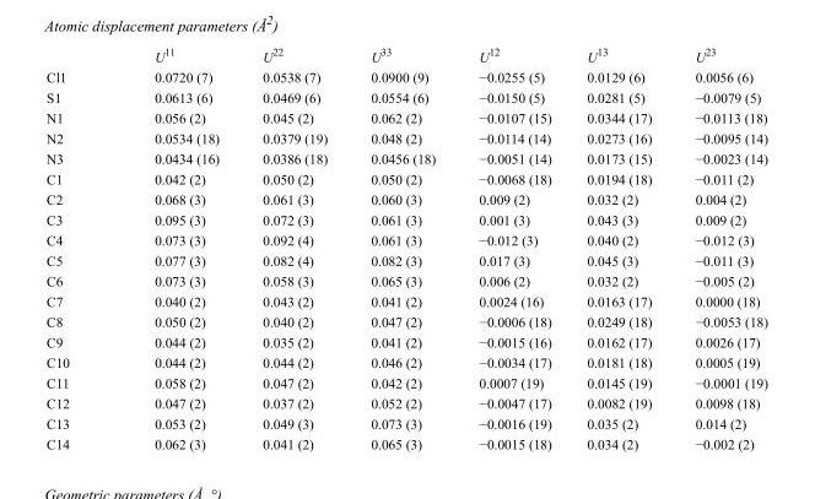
<table><thead><tr><td></td><td>U<sup>11</sup></td><td>U<sup>22</sup></td><td>U<sup>33</sup></td><td>U<sup>12</sup></td><td>U<sup>13</sup></td><td>U<sup>23</sup></td></tr></thead><tbody><tr><td>Cl1</td><td>0.0720 (7)</td><td>0.0538 (7)</td><td>0.0900 (9)</td><td>−0.0255 (5)</td><td>0.0129 (6)</td><td>0.0056 (6)</td></tr><tr><td>S1</td><td>0.0613 (6)</td><td>0.0469 (6)</td><td>0.0554 (6)</td><td>−0.0150 (5)</td><td>0.0281 (5)</td><td>−0.0079 (5)</td></tr><tr><td>N1</td><td>0.056 (2)</td><td>0.045 (2)</td><td>0.062 (2)</td><td>−0.0107 (15)</td><td>0.0344 (17)</td><td>−0.0113 (18)</td></tr><tr><td>N2</td><td>0.0534 (18)</td><td>0.0379 (19)</td><td>0.048 (2)</td><td>−0.0114 (14)</td><td>0.0273 (16)</td><td>−0.0095 (14)</td></tr><tr><td>N3</td><td>0.0434 (16)</td><td>0.0386 (18)</td><td>0.0456 (18)</td><td>−0.0051 (14)</td><td>0.0173 (15)</td><td>−0.0023 (14)</td></tr><tr><td>C1</td><td>0.042 (2)</td><td>0.050 (2)</td><td>0.050 (2)</td><td>−0.0068 (18)</td><td>0.0194 (18)</td><td>−0.011 (2)</td></tr><tr><td>C2</td><td>0.068 (3)</td><td>0.061 (3)</td><td>0.060 (3)</td><td>0.009 (2)</td><td>0.032 (2)</td><td>0.004 (2)</td></tr><tr><td>C3</td><td>0.095 (3)</td><td>0.072 (3)</td><td>0.061 (3)</td><td>0.001 (3)</td><td>0.043 (3)</td><td>0.009 (2)</td></tr><tr><td>C4</td><td>0.073 (3)</td><td>0.092 (4)</td><td>0.061 (3)</td><td>−0.012 (3)</td><td>0.040 (2)</td><td>−0.012 (3)</td></tr><tr><td>C5</td><td>0.077 (3)</td><td>0.082 (4)</td><td>0.082 (3)</td><td>0.017 (3)</td><td>0.045 (3)</td><td>−0.011 (3)</td></tr><tr><td>C6</td><td>0.073 (3)</td><td>0.058 (3)</td><td>0.065 (3)</td><td>0.006 (2)</td><td>0.032 (2)</td><td>−0.005 (2)</td></tr><tr><td>C7</td><td>0.040 (2)</td><td>0.043 (2)</td><td>0.041 (2)</td><td>0.0024 (16)</td><td>0.0163 (17)</td><td>0.0000 (18)</td></tr><tr><td>C8</td><td>0.050 (2)</td><td>0.040 (2)</td><td>0.047 (2)</td><td>−0.0006 (18)</td><td>0.0249 (18)</td><td>−0.0053 (18)</td></tr><tr><td>C9</td><td>0.044 (2)</td><td>0.035 (2)</td><td>0.041 (2)</td><td>−0.0015 (16)</td><td>0.0162 (17)</td><td>0.0026 (17)</td></tr><tr><td>C10</td><td>0.044 (2)</td><td>0.044 (2)</td><td>0.046 (2)</td><td>−0.0034 (17)</td><td>0.0181 (18)</td><td>0.0005 (19)</td></tr><tr><td>C11</td><td>0.058 (2)</td><td>0.047 (2)</td><td>0.042 (2)</td><td>0.0007 (19)</td><td>0.0145 (19)</td><td>−0.0001 (19)</td></tr><tr><td>C12</td><td>0.047 (2)</td><td>0.037 (2)</td><td>0.052 (2)</td><td>−0.0047 (17)</td><td>0.0082 (19)</td><td>0.0098 (18)</td></tr><tr><td>C13</td><td>0.053 (2)</td><td>0.049 (3)</td><td>0.073 (3)</td><td>−0.0016 (19)</td><td>0.035 (2)</td><td>0.014 (2)</td></tr><tr><td>C14</td><td>0.062 (3)</td><td>0.041 (2)</td><td>0.065 (3)</td><td>−0.0015 (18)</td><td>0.034 (2)</td><td>−0.002 (2)</td></tr></tbody></table>